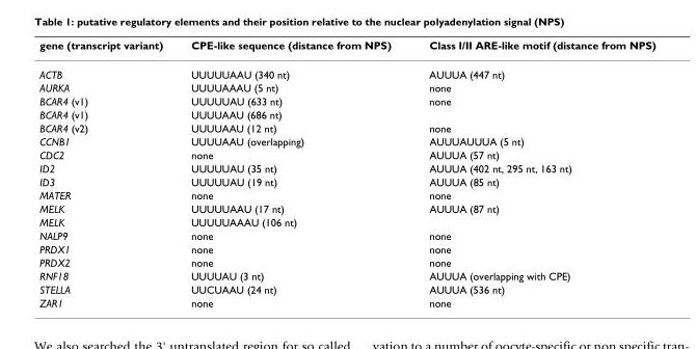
<table><thead><tr><td>gene (transcript variant)</td><td>CPE-like sequence (distance from NPS)</td><td>Class I/II ARE-like motif (distance from NPS)</td></tr></thead><tbody><tr><td>ACTB</td><td>UUUUUAAU (340 nt)</td><td>AUUUA (447 nt)</td></tr><tr><td>AURKA</td><td>UUUUAAAU (5 nt)</td><td>none</td></tr><tr><td>BCAR4 (v1)</td><td>UUUUUAU (633 nt)</td><td>none</td></tr><tr><td>BCAR4 (v1)</td><td>UUUUAAU (686 nt)</td><td></td></tr><tr><td>BCAR4 (v2)</td><td>UUUUAAU (12 nt)</td><td>none</td></tr><tr><td>CCNB1</td><td>UUUUAAU (overlapping)</td><td>AUUUAUUUA (5 nt)</td></tr><tr><td>CDC2</td><td>none</td><td>AUUUA (57 nt)</td></tr><tr><td>ID2</td><td>UUUUUAU (35 nt)</td><td>AUUUA (402 nt, 295 nt, 163 nt)</td></tr><tr><td>ID3</td><td>UUUUUAU (19 nt)</td><td>AUUUA (85 nt)</td></tr><tr><td>MATER</td><td>none</td><td>none</td></tr><tr><td>MELK</td><td>UUUUUAAU (17 nt)</td><td>AUUUA (87 nt)</td></tr><tr><td>MELK</td><td>UUUUUAAAU (106 nt)</td><td></td></tr><tr><td>NALP9</td><td>none</td><td>none</td></tr><tr><td>PRDX1</td><td>none</td><td>none</td></tr><tr><td>PRDX2</td><td>none</td><td>none</td></tr><tr><td>RNF18</td><td>UUUUAU (3 nt)</td><td>AUUUA (overlapping with CPE)</td></tr><tr><td>STELLA</td><td>UUCUAAU (24 nt)</td><td>AUUUA (536 nt)</td></tr><tr><td>ZAR1</td><td>none</td><td>none</td></tr></tbody></table>